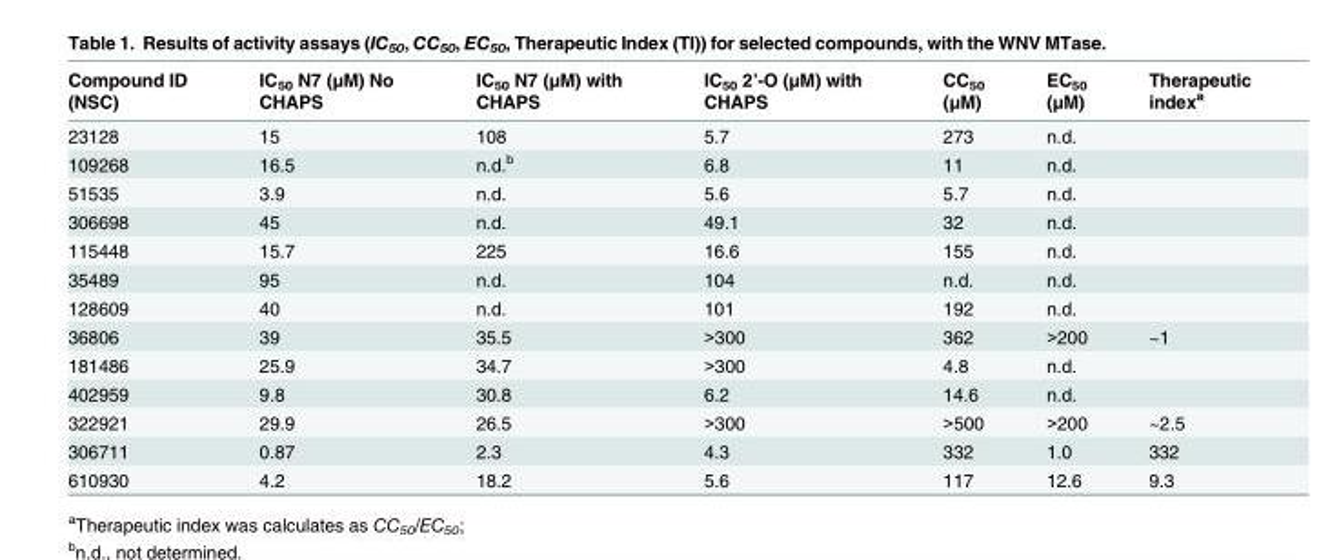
<table><thead><tr><td>Compound ID (NSC)</td><td>IC<sub>50</sub> N7 (μM) No CHAPS</td><td>IC<sub>50</sub> N7 (μM) with CHAPS</td><td>IC<sub>50</sub> 2’-O (μM) with CHAPS</td><td>CC<sub>50</sub> (μM)</td><td>EC<sub>50</sub> (μM)</td><td>Therapeutic index<sup>a</sup></td></tr></thead><tbody><tr><td>23128</td><td>15</td><td>108</td><td>5.7</td><td>273</td><td>n.d.</td><td></td></tr><tr><td>109268</td><td>16.5</td><td>n.d.<sup>b</sup></td><td>6.8</td><td>11</td><td>n.d.</td><td></td></tr><tr><td>51535</td><td>3.9</td><td>n.d.</td><td>5.6</td><td>5.7</td><td>n.d.</td><td></td></tr><tr><td>306698</td><td>45</td><td>n.d.</td><td>49.1</td><td>32</td><td>n.d.</td><td></td></tr><tr><td>115448</td><td>15.7</td><td>225</td><td>16.6</td><td>155</td><td>n.d.</td><td></td></tr><tr><td>35489</td><td>95</td><td>n.d.</td><td>104</td><td>n.d.</td><td>n.d.</td><td></td></tr><tr><td>128609</td><td>40</td><td>n.d.</td><td>101</td><td>192</td><td>n.d.</td><td></td></tr><tr><td>36806</td><td>39</td><td>35.5</td><td>&gt;300</td><td>362</td><td>&gt;200</td><td>~1</td></tr><tr><td>181486</td><td>25.9</td><td>34.7</td><td>&gt;300</td><td>4.8</td><td>n.d.</td><td></td></tr><tr><td>402959</td><td>9.8</td><td>30.8</td><td>6.2</td><td>14.6</td><td>n.d.</td><td></td></tr><tr><td>322921</td><td>29.9</td><td>26.5</td><td>&gt;300</td><td>&gt;500</td><td>&gt;200</td><td>~2.5</td></tr><tr><td>306711</td><td>0.87</td><td>2.3</td><td>4.3</td><td>332</td><td>1.0</td><td>332</td></tr><tr><td>610930</td><td>4.2</td><td>18.2</td><td>5.6</td><td>117</td><td>12.6</td><td>9.3</td></tr></tbody></table>